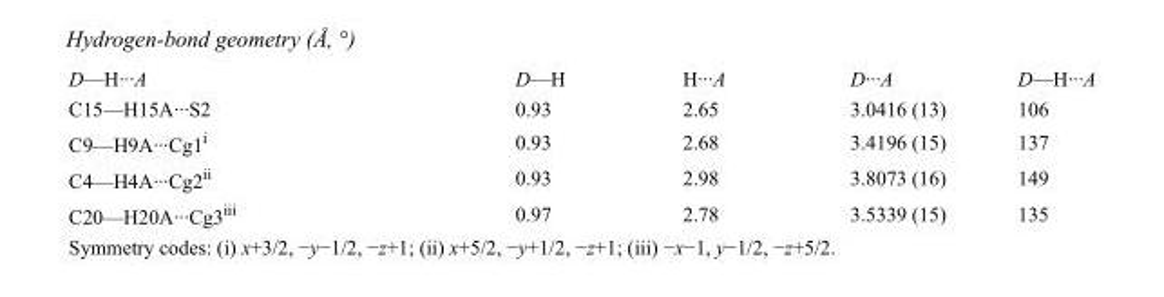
<table><tbody><tr><td>D—H···A</td><td>D—H</td><td>H···A</td><td>D···A</td><td>D—H···A</td></tr><tr><td>C15—H15A···S2</td><td>0.93</td><td>2.65</td><td>3.0416 (13)</td><td>106</td></tr><tr><td>C9—H9A···Cg1<sup>i</sup></td><td>0.93</td><td>2.68</td><td>3.4196 (15)</td><td>137</td></tr><tr><td>C4—H4A···Cg2<sup>ii</sup></td><td>0.93</td><td>2.98</td><td>3.8073 (16)</td><td>149</td></tr><tr><td>C20—H20A···Cg3<sup>iii</sup></td><td>0.97</td><td>2.78</td><td>3.5339 (15)</td><td>135</td></tr></tbody></table>